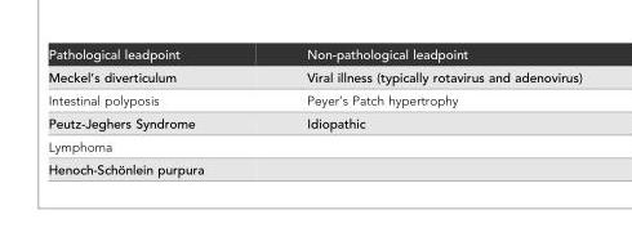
<table><tbody><tr><td>Pathological leadpoint</td><td>Non-pathological leadpoint</td></tr><tr><td>Meckel’s diverticulum</td><td>Viral illness (typically rotavirus and adenovirus)</td></tr><tr><td>Intestinal polyposis</td><td>Peyer’s Patch hypertrophy</td></tr><tr><td>Peutz-Jeghers Syndrome</td><td>Idiopathic</td></tr><tr><td colspan="2">Lymphoma</td></tr><tr><td>Henoch-Scho¨ nlein purpura</td><td></td></tr></tbody></table>